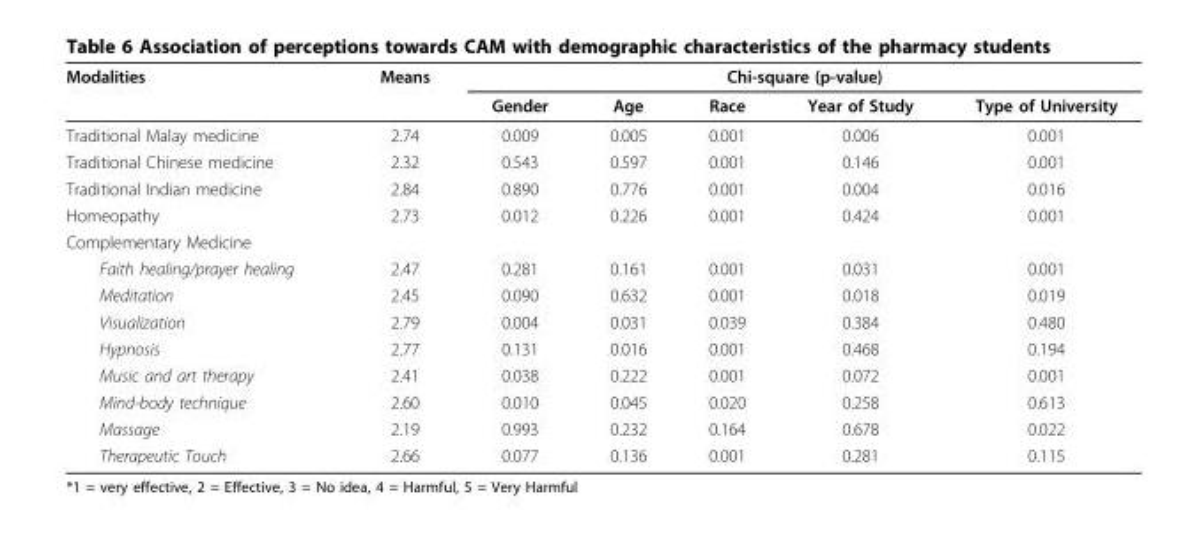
<table><thead><tr><td rowspan="2">Modalities</td><td rowspan="2">Means</td><td colspan="5">Chi-square (p-value)</td></tr><tr><td>Gender</td><td>Age</td><td>Race</td><td>Year of Study</td><td>Type of University</td></tr></thead><tbody><tr><td>Traditional Malay medicine</td><td>2.74</td><td>0.009</td><td>0.005</td><td>0.001</td><td>0.006</td><td>0.001</td></tr><tr><td>Traditional Chinese medicine</td><td>2.32</td><td>0.543</td><td>0.597</td><td>0.001</td><td>0.146</td><td>0.001</td></tr><tr><td>Traditional Indian medicine</td><td>2.84</td><td>0.890</td><td>0.776</td><td>0.001</td><td>0.004</td><td>0.016</td></tr><tr><td>Homeopathy</td><td>2.73</td><td>0.012</td><td>0.226</td><td>0.001</td><td>0.424</td><td>0.001</td></tr><tr><td colspan="7">Complementary Medicine</td></tr><tr><td>Faith healing/prayer healing</td><td>2.47</td><td>0.281</td><td>0.161</td><td>0.001</td><td>0.031</td><td>0.001</td></tr><tr><td>Meditation</td><td>2.45</td><td>0.090</td><td>0.632</td><td>0.001</td><td>0.018</td><td>0.019</td></tr><tr><td>Visualization</td><td>2.79</td><td>0.004</td><td>0.031</td><td>0.039</td><td>0.384</td><td>0.480</td></tr><tr><td>Hypnosis</td><td>2.77</td><td>0.131</td><td>0.016</td><td>0.001</td><td>0.468</td><td>0.194</td></tr><tr><td>Music and art therapy</td><td>2.41</td><td>0.038</td><td>0.222</td><td>0.001</td><td>0.072</td><td>0.001</td></tr><tr><td>Mind-body technique</td><td>2.60</td><td>0.010</td><td>0.045</td><td>0.020</td><td>0.258</td><td>0.613</td></tr><tr><td>Massage</td><td>2.19</td><td>0.993</td><td>0.232</td><td>0.164</td><td>0.678</td><td>0.022</td></tr><tr><td>Therapeutic Touch</td><td>2.66</td><td>0.077</td><td>0.136</td><td>0.001</td><td>0.281</td><td>0.115</td></tr></tbody></table>